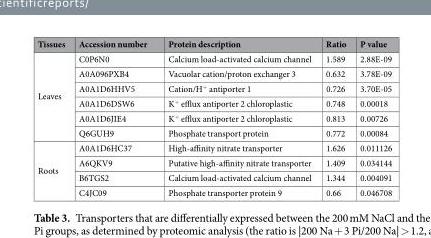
<table><thead><tr><td>Tissues</td><td>Accession number</td><td>Protein description</td><td>Ratio</td><td>P value</td></tr></thead><tbody><tr><td rowspan="6">Leaves</td><td>C0P6N0</td><td>Calcium load-activated calcium channel</td><td>1.589</td><td>2.88E-09</td></tr><tr><td>A0A096PXB4</td><td>Vacuolar cation/proton exchanger 3</td><td>0.632</td><td>3.78E-09</td></tr><tr><td>A0A1D6HHV5</td><td>Cation/H<sup>+</sup> antiporter 1</td><td>0.726</td><td>3.70E-05</td></tr><tr><td>A0A1D6DSW6</td><td>K<sup>+</sup> efflux antiporter 2 chloroplastic</td><td>0.748</td><td>0.00018</td></tr><tr><td>A0A1D6JIE4</td><td>K<sup>+</sup> efflux antiporter 2 chloroplastic</td><td>0.813</td><td>0.00726</td></tr><tr><td>Q6GUH9</td><td>Phosphate transport protein</td><td>0.772</td><td>0.00084</td></tr><tr><td rowspan="4">Roots</td><td>A0A1D6HC37</td><td>High-affinity nitrate transporter</td><td>1.626</td><td>0.011126</td></tr><tr><td>A6QKV9</td><td>Putative high-affinity nitrate transporter</td><td>1.409</td><td>0.034144</td></tr><tr><td>B6TGS2</td><td>Calcium load-activated calcium channel</td><td>1.344</td><td>0.004091</td></tr><tr><td>C4JC09</td><td>Phosphate transporter protein 9</td><td>0.66</td><td>0.046708</td></tr></tbody></table>